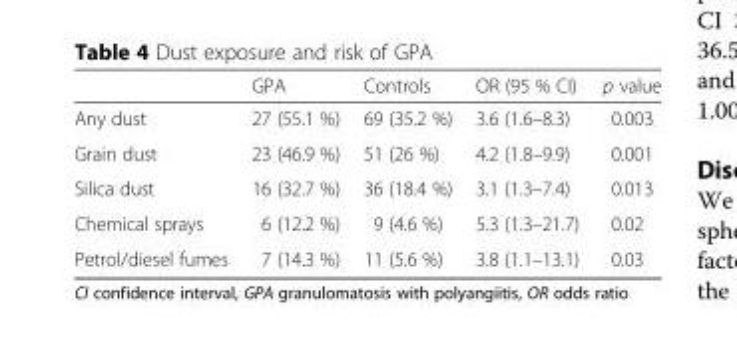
<table><thead><tr><td></td><td>GPA</td><td>Controls</td><td>OR (95 % CI)</td><td>p value</td></tr></thead><tbody><tr><td>Any dust</td><td>27 (55.1 %)</td><td>69 (35.2 %)</td><td>3.6 (1.6–8.3)</td><td>0.003</td></tr><tr><td>Grain dust</td><td>23 (46.9 %)</td><td>51 (26 %)</td><td>4.2 (1.8–9.9)</td><td>0.001</td></tr><tr><td>Silica dust</td><td>16 (32.7 %)</td><td>36 (18.4 %)</td><td>3.1 (1.3–7.4)</td><td>0.013</td></tr><tr><td>Chemical sprays</td><td>6 (12.2 %)</td><td>9 (4.6 %)</td><td>5.3 (1.3–21.7)</td><td>0.02</td></tr><tr><td>Petrol/diesel fumes</td><td>7 (14.3 %)</td><td>11 (5.6 %)</td><td>3.8 (1.1–13.1)</td><td>0.03</td></tr></tbody></table>